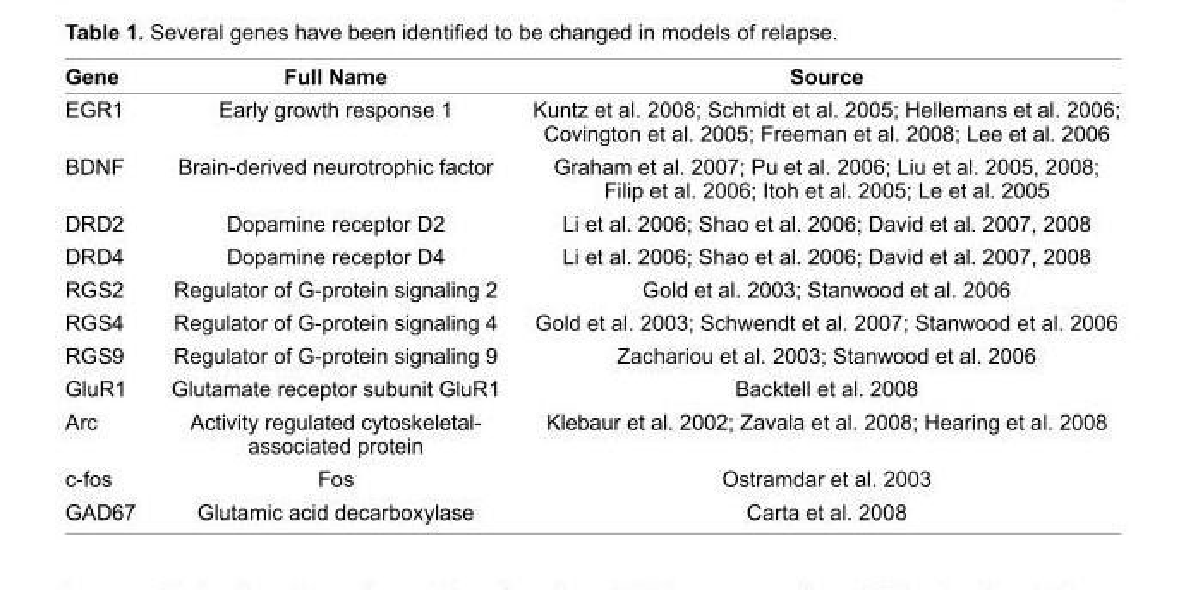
<table><thead><tr><td>Gene</td><td>Full Name</td><td>Source</td></tr></thead><tbody><tr><td>EGR1</td><td>Early growth response 1</td><td>Kuntz et al. 2008; Schmidt et al. 2005; Hellemans et al. 2006; Covington et al. 2005; Freeman et al. 2008; Lee et al. 2006</td></tr><tr><td>BDNF</td><td>Brain-derived neurotrophic factor</td><td>Graham et al. 2007; Pu et al. 2006; Liu et al. 2005, 2008; Filip et al. 2006; Itoh et al. 2005; Le et al. 2005</td></tr><tr><td>DRD2</td><td>Dopamine receptor D2</td><td>Li et al. 2006; Shao et al. 2006; David et al. 2007, 2008</td></tr><tr><td>DRD4</td><td>Dopamine receptor D4</td><td>Li et al. 2006; Shao et al. 2006; David et al. 2007, 2008</td></tr><tr><td>RGS2</td><td>Regulator of G-protein signaling 2</td><td>Gold et al. 2003; Stanwood et al. 2006</td></tr><tr><td>RGS4</td><td>Regulator of G-protein signaling 4</td><td>Gold et al. 2003; Schwendt et al. 2007; Stanwood et al. 2006</td></tr><tr><td>RGS9</td><td>Regulator of G-protein signaling 9</td><td>Zachariou et al. 2003; Stanwood et al. 2006</td></tr><tr><td>GluR1</td><td>Glutamate receptor subunit GluR1</td><td>Backtell et al. 2008</td></tr><tr><td>Arc</td><td>Activity regulated cytoskeletal- associated protein</td><td>Klebaur et al. 2002; Zavala et al. 2008; Hearing et al. 2008</td></tr><tr><td>c-fos</td><td>Fos</td><td>Ostramdar et al. 2003</td></tr><tr><td>GAD67</td><td>Glutamic acid decarboxylase</td><td>Carta et al. 2008</td></tr></tbody></table>